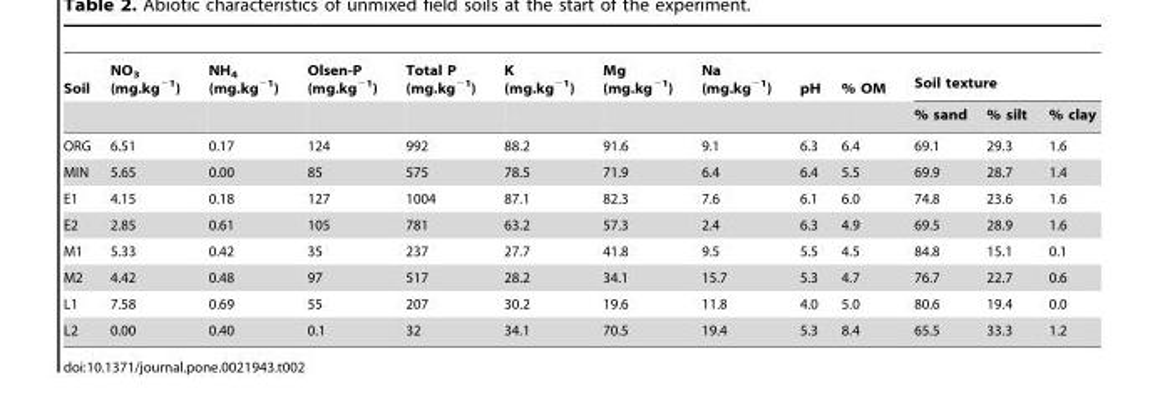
<table><thead><tr><td rowspan="2">Soil</td><td rowspan="2">NO<sub>3</sub> (mg.kg<sup>−1</sup>)</td><td rowspan="2">NH<sub>4</sub> (mg.kg<sup>−1</sup>)</td><td rowspan="2">Olsen-P (mg.kg<sup>−1</sup>)</td><td rowspan="2">Total P (mg.kg<sup>−1</sup>)</td><td rowspan="2">K (mg.kg<sup>−1</sup>)</td><td rowspan="2">Mg (mg.kg<sup>−1</sup>)</td><td rowspan="2">Na (mg.kg<sup>−1</sup>)</td><td rowspan="2">pH</td><td rowspan="2">% OM</td><td colspan="3">Soil texture</td></tr><tr><td>% sand</td><td>% silt</td><td>% clay</td></tr></thead><tbody><tr><td>ORG</td><td>6.51</td><td>0.17</td><td>124</td><td>992</td><td>88.2</td><td>91.6</td><td>9.1</td><td>6.3</td><td>6.4</td><td>69.1</td><td>29.3</td><td>1.6</td></tr><tr><td>MIN</td><td>5.65</td><td>0.00</td><td>85</td><td>575</td><td>78.5</td><td>71.9</td><td>6.4</td><td>6.4</td><td>5.5</td><td>69.9</td><td>28.7</td><td>1.4</td></tr><tr><td>E1</td><td>4.15</td><td>0.18</td><td>127</td><td>1004</td><td>87.1</td><td>82.3</td><td>7.6</td><td>6.1</td><td>6.0</td><td>74.8</td><td>23.6</td><td>1.6</td></tr><tr><td>E2</td><td>2.85</td><td>0.61</td><td>105</td><td>781</td><td>63.2</td><td>57.3</td><td>2.4</td><td>6.3</td><td>4.9</td><td>69.5</td><td>28.9</td><td>1.6</td></tr><tr><td>M1</td><td>5.33</td><td>0.42</td><td>35</td><td>237</td><td>27.7</td><td>41.8</td><td>9.5</td><td>5.5</td><td>4.5</td><td>84.8</td><td>15.1</td><td>0.1</td></tr><tr><td>M2</td><td>4.42</td><td>0.48</td><td>97</td><td>517</td><td>28.2</td><td>34.1</td><td>15.7</td><td>5.3</td><td>4.7</td><td>76.7</td><td>22.7</td><td>0.6</td></tr><tr><td>L1</td><td>7.58</td><td>0.69</td><td>55</td><td>207</td><td>30.2</td><td>19.6</td><td>11.8</td><td>4.0</td><td>5.0</td><td>80.6</td><td>19.4</td><td>0.0</td></tr><tr><td>L2</td><td>0.00</td><td>0.40</td><td>0.1</td><td>32</td><td>34.1</td><td>70.5</td><td>19.4</td><td>5.3</td><td>8.4</td><td>65.5</td><td>33.3</td><td>1.2</td></tr></tbody></table>